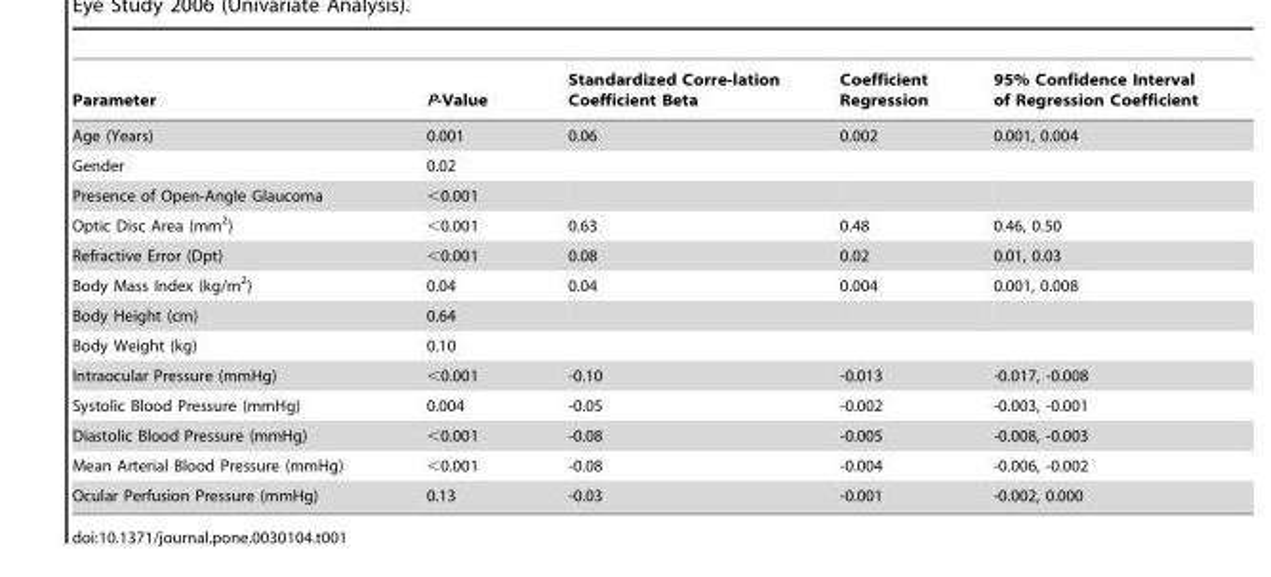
<table><thead><tr><td>Parameter</td><td>P-Value</td><td>Standardized Corre-lation Coefficient Beta</td><td>Coefficient Regression</td><td>95% Confidence Interval of Regression Coefficient</td></tr></thead><tbody><tr><td>Age (Years)</td><td>0.001</td><td>0.06</td><td>0.002</td><td>0.001, 0.004</td></tr><tr><td>Gender</td><td>0.02</td><td></td><td></td><td></td></tr><tr><td>Presence of Open-Angle Glaucoma</td><td>&lt;0.001</td><td></td><td></td><td></td></tr><tr><td>Optic Disc Area (mm<sup>2</sup>)</td><td>&lt;0.001</td><td>0.63</td><td>0.48</td><td>0.46, 0.50</td></tr><tr><td>Refractive Error (Dpt)</td><td>&lt;0.001</td><td>0.08</td><td>0.02</td><td>0.01, 0.03</td></tr><tr><td>Body Mass Index (kg/m<sup>2</sup>)</td><td>0.04</td><td>0.04</td><td>0.004</td><td>0.001, 0.008</td></tr><tr><td>Body Height (cm)</td><td>0.64</td><td></td><td></td><td></td></tr><tr><td>Body Weight (kg)</td><td>0.10</td><td></td><td></td><td></td></tr><tr><td>Intraocular Pressure (mmHg)</td><td>&lt;0.001</td><td>-0.10</td><td>-0.013</td><td>-0.017, -0.008</td></tr><tr><td>Systolic Blood Pressure (mmHg)</td><td>0.004</td><td>-0.05</td><td>-0.002</td><td>-0.003, -0.001</td></tr><tr><td>Diastolic Blood Pressure (mmHg)</td><td>&lt;0.001</td><td>-0.08</td><td>-0.005</td><td>-0.008, -0.003</td></tr><tr><td>Mean Arterial Blood Pressure (mmHg)</td><td>&lt;0.001</td><td>-0.08</td><td>-0.004</td><td>-0.006, -0.002</td></tr><tr><td>Ocular Perfusion Pressure (mmHg)</td><td>0.13</td><td>-0.03</td><td>-0.001</td><td>-0.002, 0.000</td></tr></tbody></table>